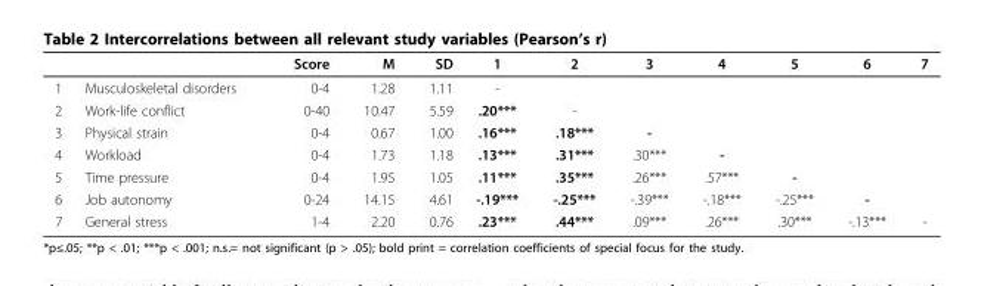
<table><thead><tr><td></td><td></td><td>Score</td><td>M</td><td>SD</td><td>1</td><td>2</td><td>3</td><td>4</td><td>5</td><td>6</td><td>7</td></tr></thead><tbody><tr><td>1</td><td>Musculoskeletal disorders</td><td>0-4</td><td>1.28</td><td>1.11</td><td>-</td><td></td><td></td><td></td><td></td><td></td><td></td></tr><tr><td>2</td><td>Work-life conflict</td><td>0-40</td><td>10.47</td><td>5.59</td><td>.20***</td><td>-</td><td></td><td></td><td></td><td></td><td></td></tr><tr><td>3</td><td>Physical strain</td><td>0-4</td><td>0.67</td><td>1.00</td><td>.16***</td><td>.18***</td><td>-</td><td></td><td></td><td></td><td></td></tr><tr><td>4</td><td>Workload</td><td>0-4</td><td>1.73</td><td>1.18</td><td>.13***</td><td>.31***</td><td>.30***</td><td>-</td><td></td><td></td><td></td></tr><tr><td>5</td><td>Time pressure</td><td>0-4</td><td>1.95</td><td>1.05</td><td>.11***</td><td>.35***</td><td>.26***</td><td>.57***</td><td>-</td><td></td><td></td></tr><tr><td>6</td><td>Job autonomy</td><td>0-24</td><td>14.15</td><td>4.61</td><td>-.19***</td><td>-.25***</td><td>-.39***</td><td>-.18***</td><td>-.25***</td><td>-</td><td></td></tr><tr><td>7</td><td>General stress</td><td>1-4</td><td>2.20</td><td>0.76</td><td>.23***</td><td>.44***</td><td>.09***</td><td>.26***</td><td>.30***</td><td>-.13***</td><td>-</td></tr></tbody></table>